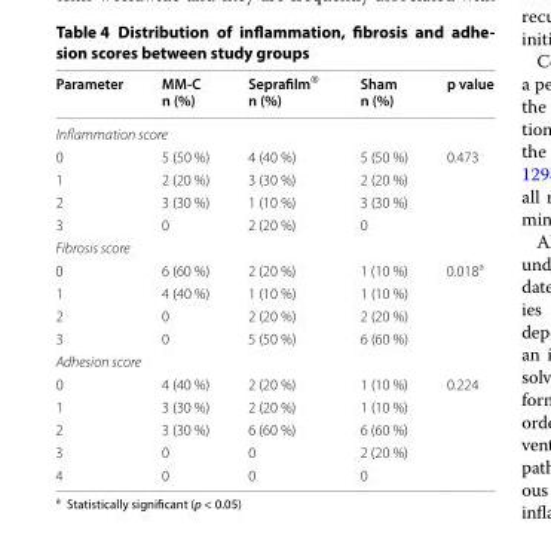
<table><thead><tr><td>Parameter</td><td>MM-C n (%)</td><td>Seprafilm<sup>®</sup> n (%)</td><td>Sham n (%)</td><td>p value</td></tr></thead><tbody><tr><td colspan="5">Inflammation score</td></tr><tr><td>0</td><td>5 (50 %)</td><td>4 (40 %)</td><td>5 (50 %)</td><td rowspan="4">0.473</td></tr><tr><td>1</td><td>2 (20 %)</td><td>3 (30 %)</td><td>2 (20 %)</td></tr><tr><td>2</td><td>3 (30 %)</td><td>1 (10 %)</td><td>3 (30 %)</td></tr><tr><td>3</td><td>0</td><td>2 (20 %)</td><td>0</td></tr><tr><td colspan="5">Fibrosis score</td></tr><tr><td>0</td><td>6 (60 %)</td><td>2 (20 %)</td><td>1 (10 %)</td><td rowspan="4">0.018<sup>a</sup></td></tr><tr><td>1</td><td>4 (40 %)</td><td>1 (10 %)</td><td>1 (10 %)</td></tr><tr><td>2</td><td>0</td><td>2 (20 %)</td><td>2 (20 %)</td></tr><tr><td>3</td><td>0</td><td>5 (50 %)</td><td>6 (60 %)</td></tr><tr><td colspan="5">Adhesion score</td></tr><tr><td>0</td><td>4 (40 %)</td><td>2 (20 %)</td><td>1 (10 %)</td><td rowspan="5">0.224</td></tr><tr><td>1</td><td>3 (30 %)</td><td>2 (20 %)</td><td>1 (10 %)</td></tr><tr><td>2</td><td>3 (30 %)</td><td>6 (60 %)</td><td>6 (60 %)</td></tr><tr><td>3</td><td>0</td><td>0</td><td>2 (20 %)</td></tr><tr><td>4</td><td>0</td><td>0</td><td>0</td></tr></tbody></table>